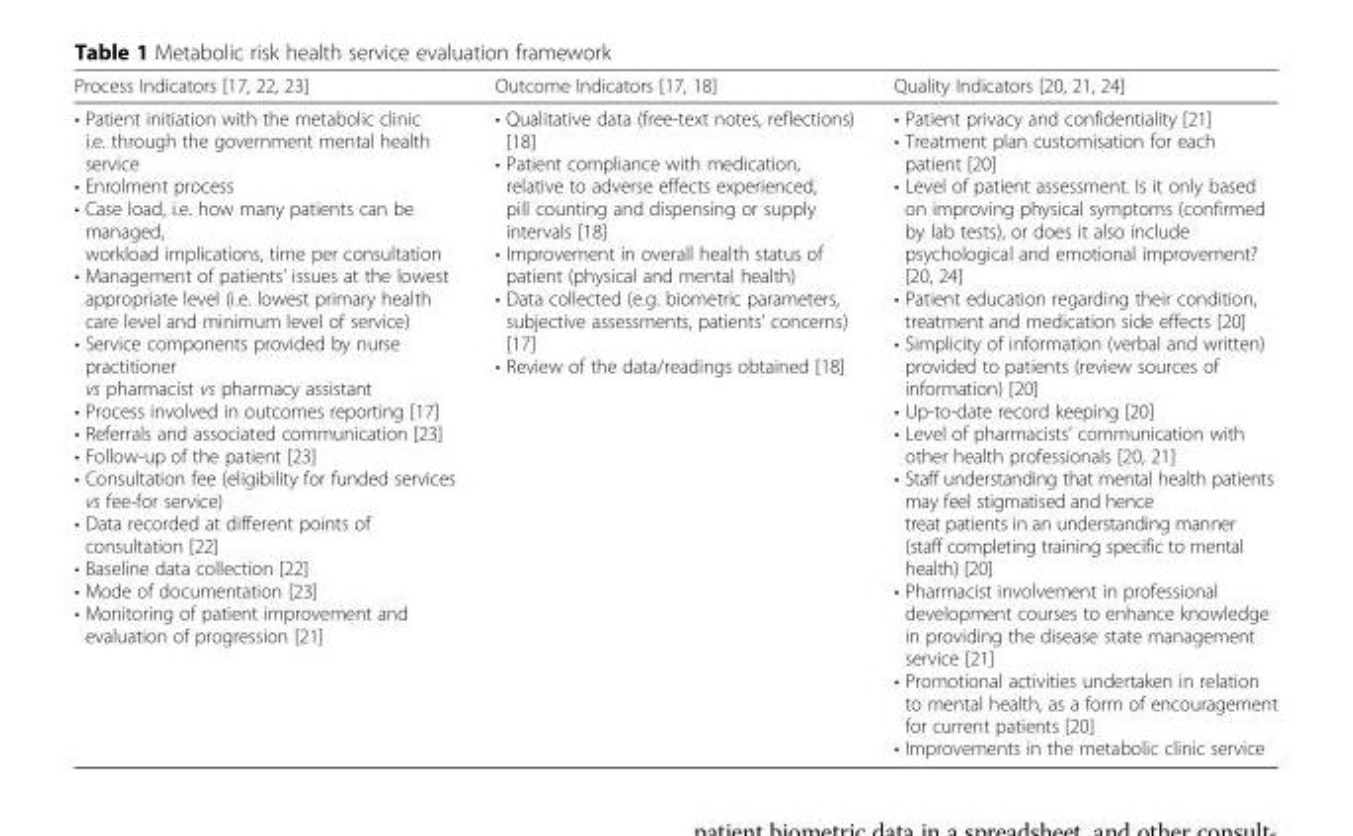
<table><thead><tr><td>Process Indicators [17, 22, 23]</td><td>Outcome Indicators [17, 18]</td><td>Quality Indicators [20, 21, 24]</td></tr></thead><tbody><tr><td>• Patient initiation with the metabolic clinic i.e. through the government mental health service • Enrolment process • Case load, i.e. how many patients can be managed, workload implications, time per consultation • Management of patients’ issues at the lowest appropriate level (i.e. lowest primary health care level and minimum level of service) • Service components provided by nurse practitioner vs pharmacist vs pharmacy assistant • Process involved in outcomes reporting [17] • Referrals and associated communication [23] • Follow-up of the patient [23] • Consultation fee (eligibility for funded services vs fee-for service) • Data recorded at different points of consultation [22] • Baseline data collection [22] • Mode of documentation [23] • Monitoring of patient improvement and evaluation of progression [21]</td><td>• Qualitative data (free-text notes, reflections) [18] • Patient compliance with medication, relative to adverse effects experienced, pill counting and dispensing or supply intervals [18] • Improvement in overall health status of patient (physical and mental health) • Data collected (e.g. biometric parameters, subjective assessments, patients’ concerns) [17] • Review of the data/readings obtained [18]</td><td>• Patient privacy and confidentiality [21] • Treatment plan customisation for each patient [20] • Level of patient assessment. Is it only based on improving physical symptoms (confirmed by lab tests), or does it also include psychological and emotional improvement? [20, 24] • Patient education regarding their condition, treatment and medication side effects [20] • Simplicity of information (verbal and written) provided to patients (review sources of information) [20] • Up-to-date record keeping [20] • Level of pharmacists’ communication with other health professionals [20, 21] • Staff understanding that mental health patients may feel stigmatised and hence treat patients in an understanding manner (staff completing training specific to mental health) [20] • Pharmacist involvement in professional development courses to enhance knowledge in providing the disease state management service [21] • Promotional activities undertaken in relation to mental health, as a form of encouragement for current patients [20] • Improvements in the metabolic clinic service</td></tr></tbody></table>